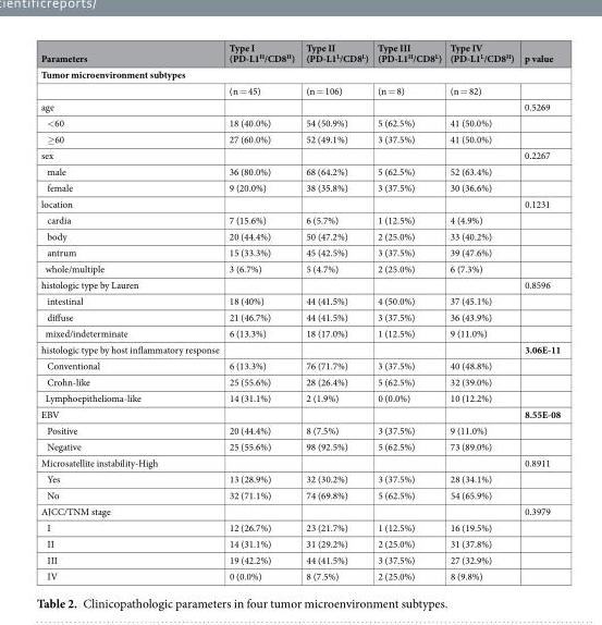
<table><thead><tr><td>Parameters</td><td>Type I (PD-L1<sup>H</sup>/CD8<sup>H</sup>)</td><td>Type II (PD-L1<sup>L</sup>/CD8<sup>L</sup>)</td><td>Type III (PD-L1<sup>H</sup>/CD8<sup>L</sup>)</td><td>Type IV (PD-L1<sup>L</sup>/CD8<sup>H</sup>)</td><td>p value</td></tr></thead><tbody><tr><td colspan="6">Tumor microenvironment subtypes</td></tr><tr><td></td><td>(n = 45)</td><td>(n = 106)</td><td>(n = 8)</td><td>(n = 82)</td><td></td></tr><tr><td>age</td><td></td><td></td><td></td><td></td><td>0.5269</td></tr><tr><td>&lt;60</td><td>18 (40.0%)</td><td>54 (50.9%)</td><td>5 (62.5%)</td><td>41 (50.0%)</td><td></td></tr><tr><td>≥60</td><td>27 (60.0%)</td><td>52 (49.1%)</td><td>3 (37.5%)</td><td>41 (50.0%)</td><td></td></tr><tr><td>sex</td><td></td><td></td><td></td><td></td><td>0.2267</td></tr><tr><td>male</td><td>36 (80.0%)</td><td>68 (64.2%)</td><td>5 (62.5%)</td><td>52 (63.4%)</td><td></td></tr><tr><td>female</td><td>9 (20.0%)</td><td>38 (35.8%)</td><td>3 (37.5%)</td><td>30 (36.6%)</td><td></td></tr><tr><td>location</td><td></td><td></td><td></td><td></td><td>0.1231</td></tr><tr><td>cardia</td><td>7 (15.6%)</td><td>6 (5.7%)</td><td>1 (12.5%)</td><td>4 (4.9%)</td><td></td></tr><tr><td>body</td><td>20 (44.4%)</td><td>50 (47.2%)</td><td>2 (25.0%)</td><td>33 (40.2%)</td><td></td></tr><tr><td>antrum</td><td>15 (33.3%)</td><td>45 (42.5%)</td><td>3 (37.5%)</td><td>39 (47.6%)</td><td></td></tr><tr><td>whole/multiple</td><td>3 (6.7%)</td><td>5 (4.7%)</td><td>2 (25.0%)</td><td>6 (7.3%)</td><td></td></tr><tr><td>histologic type by Lauren</td><td></td><td></td><td></td><td></td><td>0.8596</td></tr><tr><td>intestinal</td><td>18 (40%)</td><td>44 (41.5%)</td><td>4 (50.0%)</td><td>37 (45.1%)</td><td></td></tr><tr><td>diffuse</td><td>21 (46.7%)</td><td>44 (41.5%)</td><td>3 (37.5%)</td><td>36 (43.9%)</td><td></td></tr><tr><td>mixed/indeterminate</td><td>6 (13.3%)</td><td>18 (17.0%)</td><td>1 (12.5%)</td><td>9 (11.0%)</td><td></td></tr><tr><td>histologic type by host inflammatory response</td><td></td><td></td><td></td><td></td><td>3.06E-11</td></tr><tr><td>Conventional</td><td>6 (13.3%)</td><td>76 (71.7%)</td><td>3 (37.5%)</td><td>40 (48.8%)</td><td></td></tr><tr><td>Crohn-like</td><td>25 (55.6%)</td><td>28 (26.4%)</td><td>5 (62.5%)</td><td>32 (39.0%)</td><td></td></tr><tr><td>Lymphoepithelioma-like</td><td>14 (31.1%)</td><td>2 (1.9%)</td><td>0 (0.0%)</td><td>10 (12.2%)</td><td></td></tr><tr><td>EBV</td><td></td><td></td><td></td><td></td><td>8.55E-08</td></tr><tr><td>Positive</td><td>20 (44.4%)</td><td>8 (7.5%)</td><td>3 (37.5%)</td><td>9 (11.0%)</td><td></td></tr><tr><td>Negative</td><td>25 (55.6%)</td><td>98 (92.5%)</td><td>5 (62.5%)</td><td>73 (89.0%)</td><td></td></tr><tr><td>Microsatellite instability-High</td><td></td><td></td><td></td><td></td><td>0.8911</td></tr><tr><td>Yes</td><td>13 (28.9%)</td><td>32 (30.2%)</td><td>3 (37.5%)</td><td>28 (34.1%)</td><td></td></tr><tr><td>No</td><td>32 (71.1%)</td><td>74 (69.8%)</td><td>5 (62.5%)</td><td>54 (65.9%)</td><td></td></tr><tr><td>AJCC/TNM stage</td><td></td><td></td><td></td><td></td><td>0.3979</td></tr><tr><td>I</td><td>12 (26.7%)</td><td>23 (21.7%)</td><td>1 (12.5%)</td><td>16 (19.5%)</td><td></td></tr><tr><td>II</td><td>14 (31.1%)</td><td>31 (29.2%)</td><td>2 (25.0%)</td><td>31 (37.8%)</td><td></td></tr><tr><td>III</td><td>19 (42.2%)</td><td>44 (41.5%)</td><td>3 (37.5%)</td><td>27 (32.9%)</td><td></td></tr><tr><td>IV</td><td>0 (0.0%)</td><td>8 (7.5%)</td><td>2 (25.0%)</td><td>8 (9.8%)</td><td></td></tr></tbody></table>